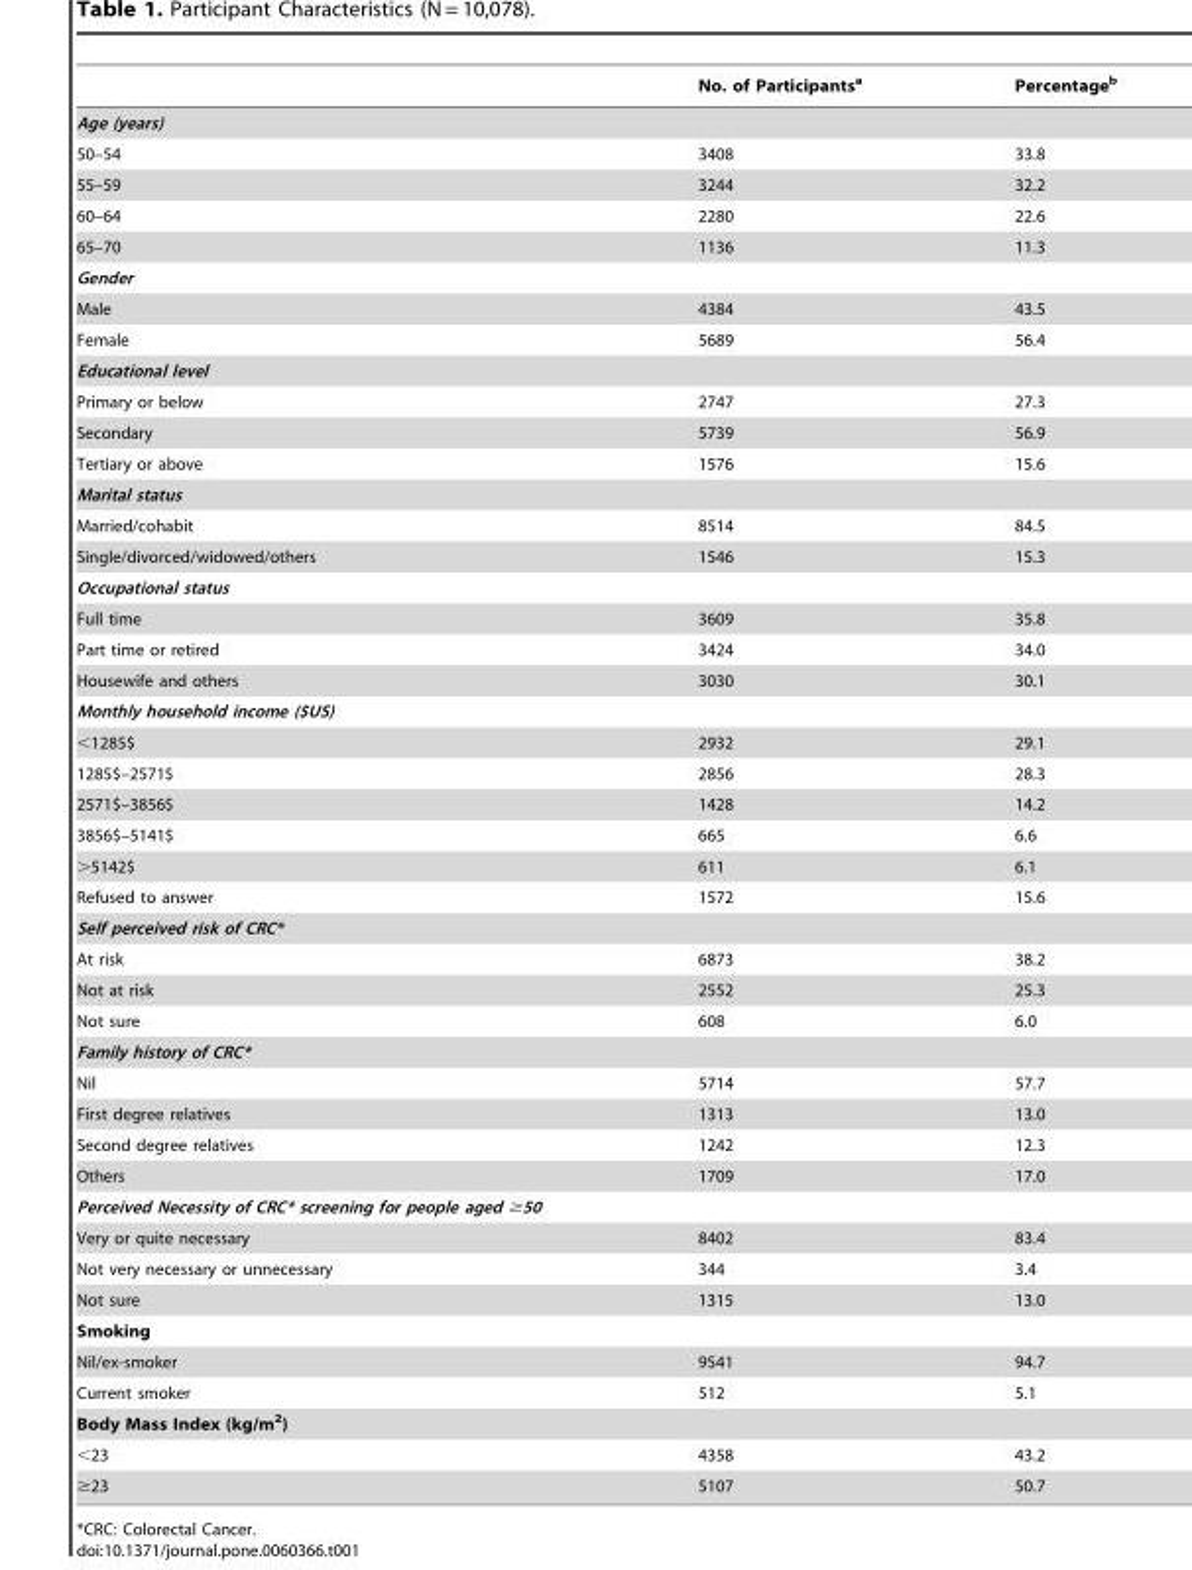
<table><thead><tr><td></td><td>No. of Participants<sup>a</sup></td><td>Percentage<sup>b</sup></td></tr></thead><tbody><tr><td colspan="3">Age (years)</td></tr><tr><td>50–54</td><td>3408</td><td>33.8</td></tr><tr><td>55–59</td><td>3244</td><td>32.2</td></tr><tr><td>60–64</td><td>2280</td><td>22.6</td></tr><tr><td>65–70</td><td>1136</td><td>11.3</td></tr><tr><td colspan="3">Gender</td></tr><tr><td>Male</td><td>4384</td><td>43.5</td></tr><tr><td>Female</td><td>5689</td><td>56.4</td></tr><tr><td colspan="3">Educational level</td></tr><tr><td>Primary or below</td><td>2747</td><td>27.3</td></tr><tr><td>Secondary</td><td>5739</td><td>56.9</td></tr><tr><td>Tertiary or above</td><td>1576</td><td>15.6</td></tr><tr><td colspan="3">Marital status</td></tr><tr><td>Married/cohabit</td><td>8514</td><td>84.5</td></tr><tr><td>Single/divorced/widowed/others</td><td>1546</td><td>15.3</td></tr><tr><td colspan="3">Occupational status</td></tr><tr><td>Full time</td><td>3609</td><td>35.8</td></tr><tr><td>Part time or retired</td><td>3424</td><td>34.0</td></tr><tr><td>Housewife and others</td><td>3030</td><td>30.1</td></tr><tr><td colspan="3">Monthly household income ($US)</td></tr><tr><td>&lt;1285$</td><td>2932</td><td>29.1</td></tr><tr><td>1285$–2571$</td><td>2856</td><td>28.3</td></tr><tr><td>2571$–3856$</td><td>1428</td><td>14.2</td></tr><tr><td>3856$–5141$</td><td>665</td><td>6.6</td></tr><tr><td>&gt;5142$</td><td>611</td><td>6.1</td></tr><tr><td>Refused to answer</td><td>1572</td><td>15.6</td></tr><tr><td colspan="3">Self perceived risk of CRC*</td></tr><tr><td>At risk</td><td>6873</td><td>38.2</td></tr><tr><td>Not at risk</td><td>2552</td><td>25.3</td></tr><tr><td>Not sure</td><td>608</td><td>6.0</td></tr><tr><td colspan="3">Family history of CRC*</td></tr><tr><td>Nil</td><td>5714</td><td>57.7</td></tr><tr><td>First degree relatives</td><td>1313</td><td>13.0</td></tr><tr><td>Second degree relatives</td><td>1242</td><td>12.3</td></tr><tr><td>Others</td><td>1709</td><td>17.0</td></tr><tr><td colspan="3">Perceived Necessity of CRC* screening for people aged ≥50</td></tr><tr><td>Very or quite necessary</td><td>8402</td><td>83.4</td></tr><tr><td>Not very necessary or unnecessary</td><td>344</td><td>3.4</td></tr><tr><td>Not sure</td><td>1315</td><td>13.0</td></tr><tr><td colspan="3">Smoking</td></tr><tr><td>Nil/ex-smoker</td><td>9541</td><td>94.7</td></tr><tr><td>Current smoker</td><td>512</td><td>5.1</td></tr><tr><td colspan="3">Body Mass Index (kg/m<sup>2</sup>)</td></tr><tr><td>&lt;23</td><td>4358</td><td>43.2</td></tr><tr><td>≥23</td><td>5107</td><td>50.7</td></tr></tbody></table>